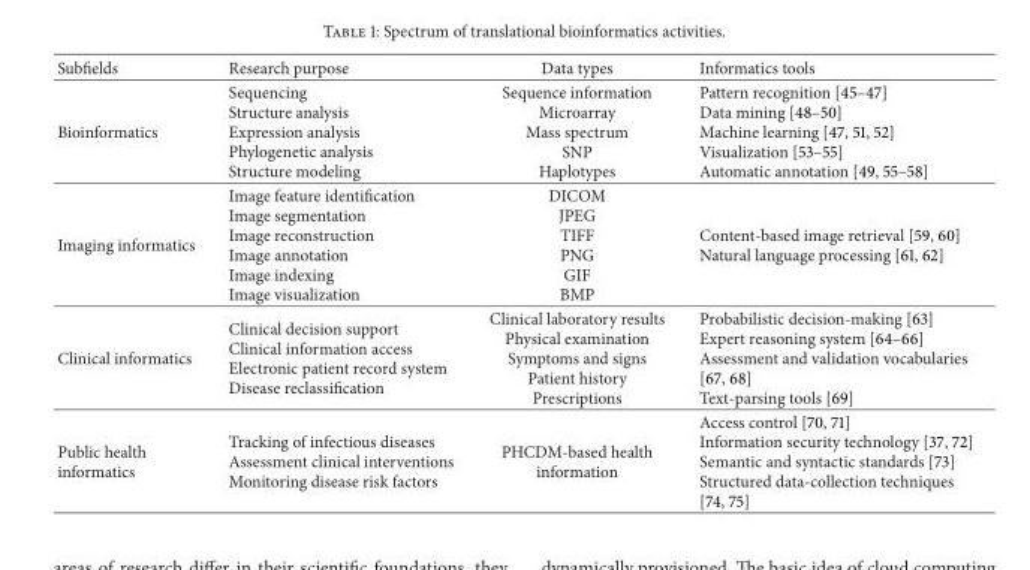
<table><thead><tr><td>Subfields</td><td>Research purpose</td><td>Data types</td><td>Informatics tools</td></tr></thead><tbody><tr><td>Bioinformatics</td><td>Sequencing Structure analysis Expression analysis Phylogenetic analysis Structure modeling</td><td>Sequence information Microarray Mass spectrum SNP Haplotypes</td><td>Pattern recognition [45–47] Data mining [48–50] Machine learning [47, 51, 52] Visualization [53–55] Automatic annotation [49, 55–58]</td></tr><tr><td>Imaging informatics</td><td>Image feature identification Image segmentation Image reconstruction Image annotation Image indexing Image visualization</td><td>DICOM JPEG TIFF PNG GIF BMP</td><td>Content-based image retrieval [59, 60] Natural language processing [61, 62]</td></tr><tr><td>Clinical informatics</td><td>Clinical decision support Clinical information access Electronic patient record system Disease reclassification</td><td>Clinical laboratory results Physical examination Symptoms and signs Patient history Prescriptions</td><td>Probabilistic decision-making [63] Expert reasoning system [64–66] Assessment and validation vocabularies [67, 68] Text-parsing tools [69]</td></tr><tr><td>Public health informatics</td><td>Tracking of infectious diseases Assessment clinical interventions Monitoring disease risk factors</td><td>PHCDM-based health information</td><td>Access control [70, 71] Information security technology [37, 72] Semantic and syntactic standards [73] Structured data-collection techniques [74, 75]</td></tr></tbody></table>